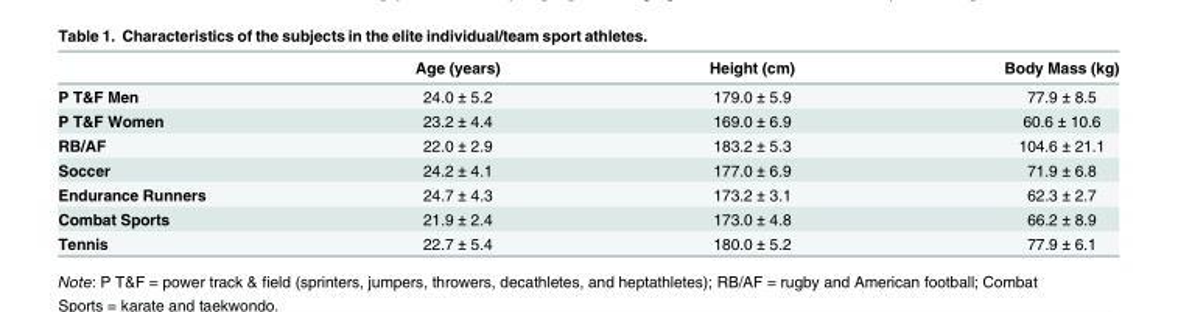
<table><thead><tr><td></td><td>Age (years)</td><td>Height (cm)</td><td>Body Mass (kg)</td></tr></thead><tbody><tr><td>P T&amp;F Men</td><td>24.0 ± 5.2</td><td>179.0 ± 5.9</td><td>77.9 ± 8.5</td></tr><tr><td>P T&amp;F Women</td><td>23.2 ± 4.4</td><td>169.0 ± 6.9</td><td>60.6 ± 10.6</td></tr><tr><td>RB/AF</td><td>22.0 ± 2.9</td><td>183.2 ± 5.3</td><td>104.6 ± 21.1</td></tr><tr><td>Soccer</td><td>24.2 ± 4.1</td><td>177.0 ± 6.9</td><td>71.9 ± 6.8</td></tr><tr><td>Endurance Runners</td><td>24.7 ± 4.3</td><td>173.2 ± 3.1</td><td>62.3 ± 2.7</td></tr><tr><td>Combat Sports</td><td>21.9 ± 2.4</td><td>173.0 ± 4.8</td><td>66.2 ± 8.9</td></tr><tr><td>Tennis</td><td>22.7 ± 5.4</td><td>180.0 ± 5.2</td><td>77.9 ± 6.1</td></tr></tbody></table>